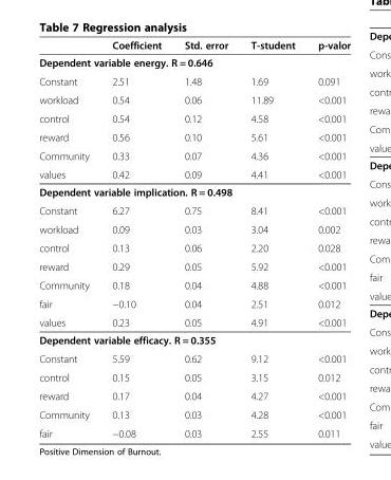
<table><thead><tr><td></td><td>Coefficient</td><td>Std. error</td><td>T-student</td><td>p-valor</td></tr></thead><tbody><tr><td colspan="5">Dependent variable energy. R = 0.646</td></tr><tr><td>Constant</td><td>2.51</td><td>1.48</td><td>1.69</td><td>0.091</td></tr><tr><td>workload</td><td>0.54</td><td>0.06</td><td>11.89</td><td>&lt;0.001</td></tr><tr><td>control</td><td>0.54</td><td>0.12</td><td>4.58</td><td>&lt;0.001</td></tr><tr><td>reward</td><td>0.56</td><td>0.10</td><td>5.61</td><td>&lt;0.001</td></tr><tr><td>Community</td><td>0.33</td><td>0.07</td><td>4.36</td><td>&lt;0.001</td></tr><tr><td>values</td><td>0.42</td><td>0.09</td><td>4.41</td><td>&lt;0.001</td></tr><tr><td colspan="5">Dependent variable implication. R = 0.498</td></tr><tr><td>Constant</td><td>6.27</td><td>0.75</td><td>8.41</td><td>&lt;0.001</td></tr><tr><td>workload</td><td>0.09</td><td>0.03</td><td>3.04</td><td>0.002</td></tr><tr><td>control</td><td>0.13</td><td>0.06</td><td>2.20</td><td>0.028</td></tr><tr><td>reward</td><td>0.29</td><td>0.05</td><td>5.92</td><td>&lt;0.001</td></tr><tr><td>Community</td><td>0.18</td><td>0.04</td><td>4.88</td><td>&lt;0.001</td></tr><tr><td>fair</td><td>−0.10</td><td>0.04</td><td>2.51</td><td>0.012</td></tr><tr><td>values</td><td>0.23</td><td>0.05</td><td>4.91</td><td>&lt;0.001</td></tr><tr><td colspan="5">Dependent variable efficacy. R = 0.355</td></tr><tr><td>Constant</td><td>5.59</td><td>0.62</td><td>9.12</td><td>&lt;0.001</td></tr><tr><td>control</td><td>0.15</td><td>0.05</td><td>3.15</td><td>0.012</td></tr><tr><td>reward</td><td>0.17</td><td>0.04</td><td>4.27</td><td>&lt;0.001</td></tr><tr><td>Community</td><td>0.13</td><td>0.03</td><td>4.28</td><td>&lt;0.001</td></tr><tr><td>fair</td><td>−0.08</td><td>0.03</td><td>2.55</td><td>0.011</td></tr></tbody></table>